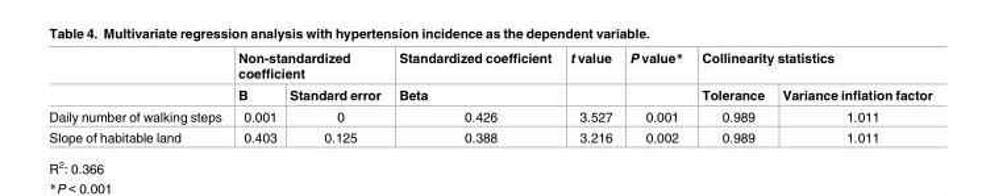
<table><thead><tr><td rowspan="2"></td><td colspan="2">Non-standardized coefficient</td><td rowspan="2">Standardized coefficient Beta</td><td rowspan="2">t value</td><td rowspan="2">P value*</td><td colspan="2">Collinearity statistics</td></tr><tr><td>B</td><td>Standard error</td><td>Tolerance</td><td>Variance inflation factor</td></tr></thead><tbody><tr><td>Daily number of walking steps</td><td>0.001</td><td>0</td><td>0.426</td><td>3.527</td><td>0.001</td><td>0.989</td><td>1.011</td></tr><tr><td>Slope of habitable land</td><td>0.403</td><td>0.125</td><td>0.388</td><td>3.216</td><td>0.002</td><td>0.989</td><td>1.011</td></tr></tbody></table>